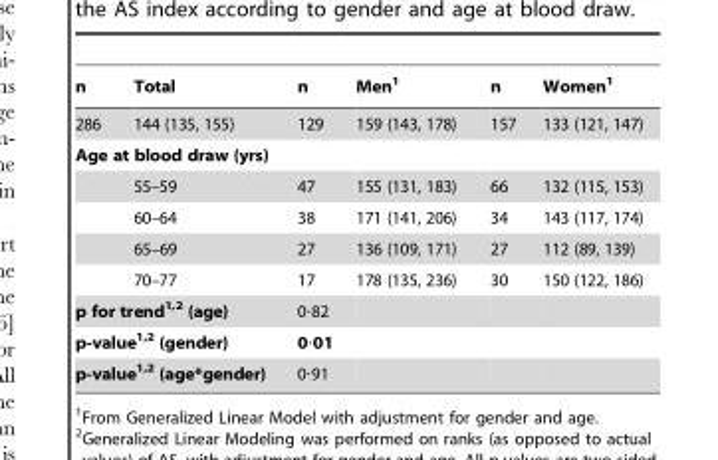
<table><thead><tr><td>n</td><td>Total</td><td>n</td><td>Men<sup>1</sup></td><td>n</td><td>Women<sup>1</sup></td></tr></thead><tbody><tr><td>286</td><td>144 (135, 155)</td><td>129</td><td>159 (143, 178)</td><td>157</td><td>133 (121, 147)</td></tr><tr><td colspan="6">Age at blood draw (yrs)</td></tr><tr><td></td><td>55–59</td><td>47</td><td>155 (131, 183)</td><td>66</td><td>132 (115, 153)</td></tr><tr><td></td><td>60–64</td><td>38</td><td>171 (141, 206)</td><td>34</td><td>143 (117, 174)</td></tr><tr><td></td><td>65–69</td><td>27</td><td>136 (109, 171)</td><td>27</td><td>112 (89, 139)</td></tr><tr><td></td><td>70–77</td><td>17</td><td>178 (135, 236)</td><td>30</td><td>150 (122, 186)</td></tr><tr><td colspan="2">p for trend1,2 (age)</td><td>0·82</td><td></td><td></td><td></td></tr><tr><td colspan="2">p-value1,2 (gender)</td><td>0·01</td><td></td><td></td><td></td></tr><tr><td colspan="2">p-value1,2 (age*gender)</td><td>0·91</td><td></td><td></td><td></td></tr></tbody></table>